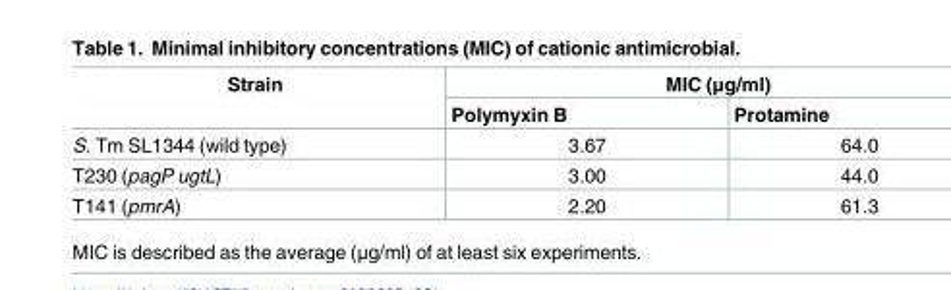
<table><thead><tr><td rowspan="2">Strain</td><td colspan="2">MIC (μg/ml)</td></tr><tr><td>Polymyxin B</td><td>Protamine</td></tr></thead><tbody><tr><td>S. Tm SL1344 (wild type)</td><td>3.67</td><td>64.0</td></tr><tr><td>T230 (pagP ugtL)</td><td>3.00</td><td>44.0</td></tr><tr><td>T141 (pmrA)</td><td>2.20</td><td>61.3</td></tr></tbody></table>